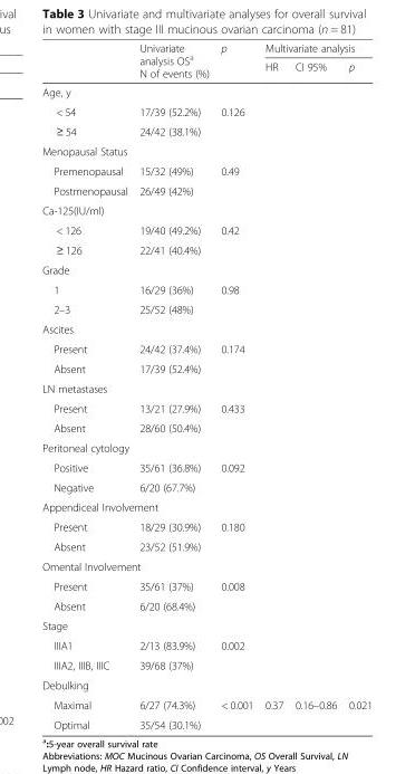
<table><thead><tr><td rowspan="2"></td><td rowspan="2">Univariate analysis OS<sup>a</sup> N of events (%)</td><td rowspan="2">p</td><td colspan="3">Multivariate analysis</td></tr><tr><td>HR</td><td>CI 95%</td><td>p</td></tr></thead><tbody><tr><td colspan="6">Age, y</td></tr><tr><td>&lt; 54</td><td>17/39 (52.2%)</td><td rowspan="2">0.126</td><td></td><td></td><td></td></tr><tr><td>≥ 54</td><td>24/42 (38.1%)</td><td></td><td></td><td></td></tr><tr><td colspan="6">Menopausal Status</td></tr><tr><td>Premenopausal</td><td>15/32 (49%)</td><td rowspan="2">0.49</td><td></td><td></td><td></td></tr><tr><td>Postmenopausal</td><td>26/49 (42%)</td><td></td><td></td><td></td></tr><tr><td colspan="6">Ca-125(IU/ml)</td></tr><tr><td>&lt; 126</td><td>19/40 (49.2%)</td><td rowspan="2">0.42</td><td></td><td></td><td></td></tr><tr><td>≥ 126</td><td>22/41 (40.4%)</td><td></td><td></td><td></td></tr><tr><td colspan="6">Grade</td></tr><tr><td>1</td><td>16/29 (36%)</td><td rowspan="2">0.98</td><td></td><td></td><td></td></tr><tr><td>2–3</td><td>25/52 (48%)</td><td></td><td></td><td></td></tr><tr><td colspan="6">Ascites</td></tr><tr><td>Present</td><td>24/42 (37.4%)</td><td rowspan="2">0.174</td><td></td><td></td><td></td></tr><tr><td>Absent</td><td>17/39 (52.4%)</td><td></td><td></td><td></td></tr><tr><td colspan="6">LN metastases</td></tr><tr><td>Present</td><td>13/21 (27.9%)</td><td rowspan="2">0.433</td><td></td><td></td><td></td></tr><tr><td>Absent</td><td>28/60 (50.4%)</td><td></td><td></td><td></td></tr><tr><td colspan="6">Peritoneal cytology</td></tr><tr><td>Positive</td><td>35/61 (36.8%)</td><td rowspan="2">0.092</td><td></td><td></td><td></td></tr><tr><td>Negative</td><td>6/20 (67.7%)</td><td></td><td></td><td></td></tr><tr><td colspan="6">Appendiceal Involvement</td></tr><tr><td>Present</td><td>18/29 (30.9%)</td><td rowspan="2">0.180</td><td></td><td></td><td></td></tr><tr><td>Absent</td><td>23/52 (51.9%)</td><td></td><td></td><td></td></tr><tr><td colspan="6">Omental Involvement</td></tr><tr><td>Present</td><td>35/61 (37%)</td><td rowspan="2">0.008</td><td></td><td></td><td></td></tr><tr><td>Absent</td><td>6/20 (68.4%)</td><td></td><td></td><td></td></tr><tr><td colspan="6">Stage</td></tr><tr><td>IIIA1</td><td>2/13 (83.9%)</td><td rowspan="2">0.002</td><td></td><td></td><td></td></tr><tr><td>IIIA2, IIIB, IIIC</td><td>39/68 (37%)</td><td></td><td></td><td></td></tr><tr><td colspan="6">Debulking</td></tr><tr><td>Maximal</td><td>6/27 (74.3%)</td><td rowspan="2">&lt; 0.001</td><td rowspan="2">0.37</td><td rowspan="2">0.16–0.86</td><td rowspan="2">0.021</td></tr><tr><td>Optimal</td><td>35/54 (30.1%)</td></tr></tbody></table>